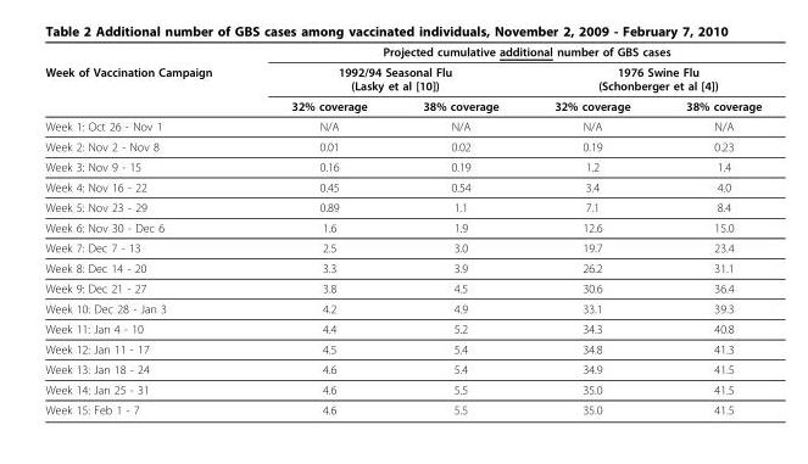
<table><thead><tr><td rowspan="3">Week of Vaccination Campaign</td><td colspan="4">Projected cumulative additional number of GBS cases</td></tr><tr><td colspan="2">1992/94 Seasonal Flu (Lasky et al [10])</td><td colspan="2">1976 Swine Flu (Schonberger et al [4])</td></tr><tr><td>32% coverage</td><td>38% coverage</td><td>32% coverage</td><td>38% coverage</td></tr></thead><tbody><tr><td>Week 1: Oct 26 - Nov 1</td><td>N/A</td><td>N/A</td><td>N/A</td><td>N/A</td></tr><tr><td>Week 2: Nov 2 - Nov 8</td><td>0.01</td><td>0.02</td><td>0.19</td><td>0.23</td></tr><tr><td>Week 3: Nov 9 - 15</td><td>0.16</td><td>0.19</td><td>1.2</td><td>1.4</td></tr><tr><td>Week 4: Nov 16 - 22</td><td>0.45</td><td>0.54</td><td>3.4</td><td>4.0</td></tr><tr><td>Week 5: Nov 23 - 29</td><td>0.89</td><td>1.1</td><td>7.1</td><td>8.4</td></tr><tr><td>Week 6: Nov 30 - Dec 6</td><td>1.6</td><td>1.9</td><td>12.6</td><td>15.0</td></tr><tr><td>Week 7: Dec 7 - 13</td><td>2.5</td><td>3.0</td><td>19.7</td><td>23.4</td></tr><tr><td>Week 8: Dec 14 - 20</td><td>3.3</td><td>3.9</td><td>26.2</td><td>31.1</td></tr><tr><td>Week 9: Dec 21 - 27</td><td>3.8</td><td>4.5</td><td>30.6</td><td>36.4</td></tr><tr><td>Week 10: Dec 28 - Jan 3</td><td>4.2</td><td>4.9</td><td>33.1</td><td>39.3</td></tr><tr><td>Week 11: Jan 4 - 10</td><td>4.4</td><td>5.2</td><td>34.3</td><td>40.8</td></tr><tr><td>Week 12: Jan 11 - 17</td><td>4.5</td><td>5.4</td><td>34.8</td><td>41.3</td></tr><tr><td>Week 13: Jan 18 - 24</td><td>4.6</td><td>5.4</td><td>34.9</td><td>41.5</td></tr><tr><td>Week 14: Jan 25 - 31</td><td>4.6</td><td>5.5</td><td>35.0</td><td>41.5</td></tr><tr><td>Week 15: Feb 1 - 7</td><td>4.6</td><td>5.5</td><td>35.0</td><td>41.5</td></tr></tbody></table>